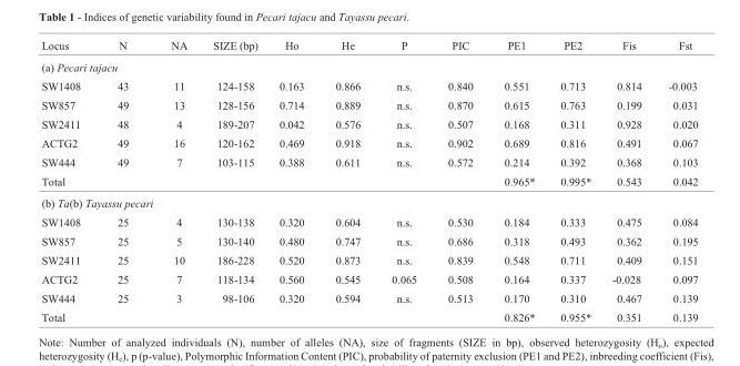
<table><thead><tr><td>Locus</td><td>N</td><td>NA</td><td>SIZE (bp)</td><td>Ho</td><td>He</td><td>P</td><td>PIC</td><td>PE1</td><td>PE2</td><td>Fis</td><td>Fst</td></tr></thead><tbody><tr><td colspan="12">(a) Pecari tajacu</td></tr><tr><td>SW1408</td><td>43</td><td>11</td><td>124-158</td><td>0.163</td><td>0.866</td><td>n.s.</td><td>0.840</td><td>0.551</td><td>0.713</td><td>0.814</td><td>-0.003</td></tr><tr><td>SW857</td><td>49</td><td>13</td><td>128-156</td><td>0.714</td><td>0.889</td><td>n.s.</td><td>0.870</td><td>0.615</td><td>0.763</td><td>0.199</td><td>0.031</td></tr><tr><td>SW2411</td><td>48</td><td>4</td><td>189-207</td><td>0.042</td><td>0.576</td><td>n.s.</td><td>0.507</td><td>0.168</td><td>0.311</td><td>0.928</td><td>0.020</td></tr><tr><td>ACTG2</td><td>49</td><td>16</td><td>120-162</td><td>0.469</td><td>0.918</td><td>n.s.</td><td>0.902</td><td>0.689</td><td>0.816</td><td>0.491</td><td>0.067</td></tr><tr><td>SW444</td><td>49</td><td>7</td><td>103-115</td><td>0.388</td><td>0.611</td><td>n.s.</td><td>0.572</td><td>0.214</td><td>0.392</td><td>0.368</td><td>0.103</td></tr><tr><td>Total</td><td></td><td></td><td></td><td></td><td></td><td></td><td></td><td>0.965*</td><td>0.995*</td><td>0.543</td><td>0.042</td></tr><tr><td colspan="12">(b) Ta(b) Tayassu pecari</td></tr><tr><td>SW1408</td><td>25</td><td>4</td><td>130-138</td><td>0.320</td><td>0.604</td><td>n.s.</td><td>0.530</td><td>0.184</td><td>0.333</td><td>0.475</td><td>0.084</td></tr><tr><td>SW857</td><td>25</td><td>5</td><td>130-140</td><td>0.480</td><td>0.747</td><td>n.s.</td><td>0.686</td><td>0.318</td><td>0.493</td><td>0.362</td><td>0.195</td></tr><tr><td>SW2411</td><td>25</td><td>10</td><td>186-228</td><td>0.520</td><td>0.873</td><td>n.s.</td><td>0.839</td><td>0.548</td><td>0.711</td><td>0.409</td><td>0.151</td></tr><tr><td>ACTG2</td><td>25</td><td>7</td><td>118-134</td><td>0.560</td><td>0.545</td><td>0.065</td><td>0.508</td><td>0.164</td><td>0.337</td><td>-0.028</td><td>0.097</td></tr><tr><td>SW444</td><td>25</td><td>3</td><td>98-106</td><td>0.320</td><td>0.594</td><td>n.s.</td><td>0.513</td><td>0.170</td><td>0.310</td><td>0.467</td><td>0.139</td></tr><tr><td>Total</td><td></td><td></td><td></td><td></td><td></td><td></td><td></td><td>0.826*</td><td>0.955*</td><td>0.351</td><td>0.139</td></tr></tbody></table>